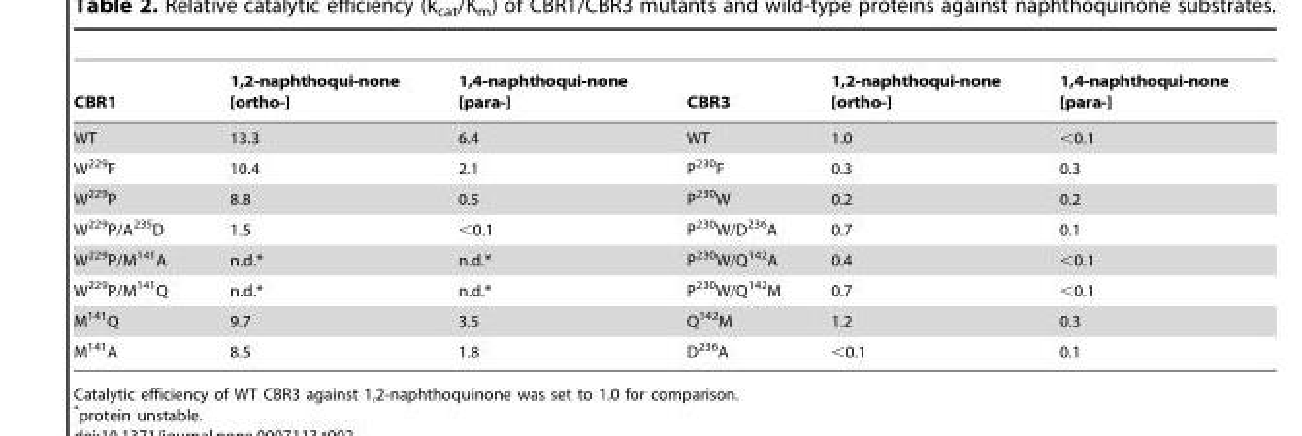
<table><thead><tr><td>CBR1</td><td>1,2-naphthoqui-none [ortho-]</td><td>1,4-naphthoqui-none [para-]</td><td>CBR3</td><td>1,2-naphthoqui-none [ortho-]</td><td>1,4-naphthoqui-none [para-]</td></tr></thead><tbody><tr><td>WT</td><td>13.3</td><td>6.4</td><td>WT</td><td>1.0</td><td>&lt;0.1</td></tr><tr><td>W<sup>229</sup>F</td><td>10.4</td><td>2.1</td><td>P<sup>230</sup>F</td><td>0.3</td><td>0.3</td></tr><tr><td>W<sup>229</sup>P</td><td>8.8</td><td>0.5</td><td>P<sup>230</sup>W</td><td>0.2</td><td>0.2</td></tr><tr><td>W<sup>229</sup>P/A<sup>235</sup>D</td><td>1.5</td><td>&lt;0.1</td><td>P<sup>230</sup>W/D<sup>236</sup>A</td><td>0.7</td><td>0.1</td></tr><tr><td>W<sup>229</sup>P/M<sup>141</sup>A</td><td>n.d.*</td><td>n.d.*</td><td>P<sup>230</sup>W/Q<sup>142</sup>A</td><td>0.4</td><td>&lt;0.1</td></tr><tr><td>W<sup>229</sup>P/M<sup>141</sup>Q</td><td>n.d.*</td><td>n.d.*</td><td>P<sup>230</sup>W/Q<sup>142</sup>M</td><td>0.7</td><td>&lt;0.1</td></tr><tr><td>M<sup>141</sup>Q</td><td>9.7</td><td>3.5</td><td>Q<sup>142</sup>M</td><td>1.2</td><td>0.3</td></tr><tr><td>M<sup>141</sup>A</td><td>8.5</td><td>1.8</td><td>D<sup>236</sup>A</td><td>&lt;0.1</td><td>0.1</td></tr></tbody></table>